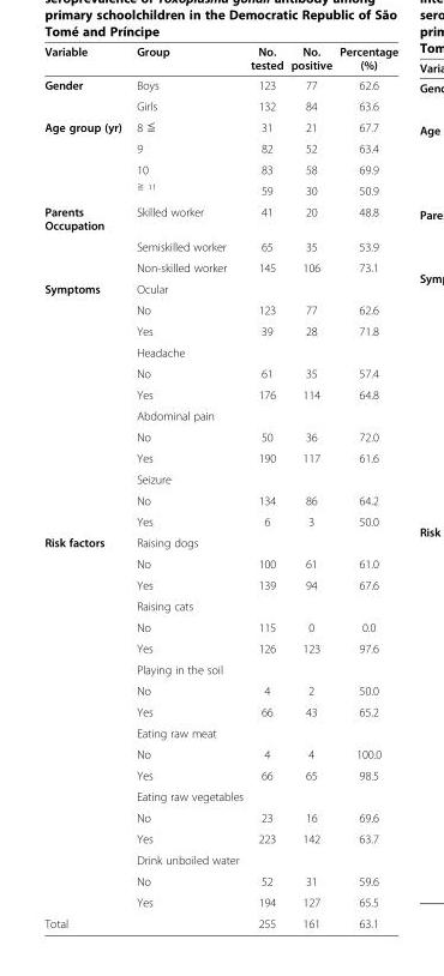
<table><thead><tr><td>Variable</td><td>Group</td><td>No. tested</td><td>No. positive</td><td>Percentage (%)</td></tr></thead><tbody><tr><td rowspan="2">Gender</td><td>Boys</td><td>123</td><td>77</td><td>62.6</td></tr><tr><td>Girls</td><td>132</td><td>84</td><td>63.6</td></tr><tr><td rowspan="4">Age group (yr)</td><td>8 ≦</td><td>31</td><td>21</td><td>67.7</td></tr><tr><td>9</td><td>82</td><td>52</td><td>63.4</td></tr><tr><td>10</td><td>83</td><td>58</td><td>69.9</td></tr><tr><td><sup>≧ 11</sup></td><td>59</td><td>30</td><td>50.9</td></tr><tr><td rowspan="3">Parents Occupation</td><td>Skilled worker</td><td>41</td><td>20</td><td>48.8</td></tr><tr><td>Semiskilled worker</td><td>65</td><td>35</td><td>53.9</td></tr><tr><td>Non-skilled worker</td><td>145</td><td>106</td><td>73.1</td></tr><tr><td rowspan="12">Symptoms</td><td>Ocular</td><td></td><td></td><td></td></tr><tr><td>No</td><td>123</td><td>77</td><td>62.6</td></tr><tr><td>Yes</td><td>39</td><td>28</td><td>71.8</td></tr><tr><td>Headache</td><td></td><td></td><td></td></tr><tr><td>No</td><td>61</td><td>35</td><td>57.4</td></tr><tr><td>Yes</td><td>176</td><td>114</td><td>64.8</td></tr><tr><td>Abdominal pain</td><td></td><td></td><td></td></tr><tr><td>No</td><td>50</td><td>36</td><td>72.0</td></tr><tr><td>Yes</td><td>190</td><td>117</td><td>61.6</td></tr><tr><td>Seizure</td><td></td><td></td><td></td></tr><tr><td>No</td><td>134</td><td>86</td><td>64.2</td></tr><tr><td>Yes</td><td>6</td><td>3</td><td>50.0</td></tr><tr><td rowspan="18">Risk factors</td><td>Raising dogs</td><td></td><td></td><td></td></tr><tr><td>No</td><td>100</td><td>61</td><td>61.0</td></tr><tr><td>Yes</td><td>139</td><td>94</td><td>67.6</td></tr><tr><td>Raising cats</td><td></td><td></td><td></td></tr><tr><td>No</td><td>115</td><td>0</td><td>0.0</td></tr><tr><td>Yes</td><td>126</td><td>123</td><td>97.6</td></tr><tr><td>Playing in the soil</td><td></td><td></td><td></td></tr><tr><td>No</td><td>4</td><td>2</td><td>50.0</td></tr><tr><td>Yes</td><td>66</td><td>43</td><td>65.2</td></tr><tr><td>Eating raw meat</td><td></td><td></td><td></td></tr><tr><td>No</td><td>4</td><td>4</td><td>100.0</td></tr><tr><td>Yes</td><td>66</td><td>65</td><td>98.5</td></tr><tr><td>Eating raw vegetables</td><td></td><td></td><td></td></tr><tr><td>No</td><td>23</td><td>16</td><td>69.6</td></tr><tr><td>Yes</td><td>223</td><td>142</td><td>63.7</td></tr><tr><td>Drink unboiled water</td><td></td><td></td><td></td></tr><tr><td>No</td><td>52</td><td>31</td><td>59.6</td></tr><tr><td>Yes</td><td>194</td><td>127</td><td>65.5</td></tr><tr><td>Total</td><td></td><td>255</td><td>161</td><td>63.1</td></tr></tbody></table>